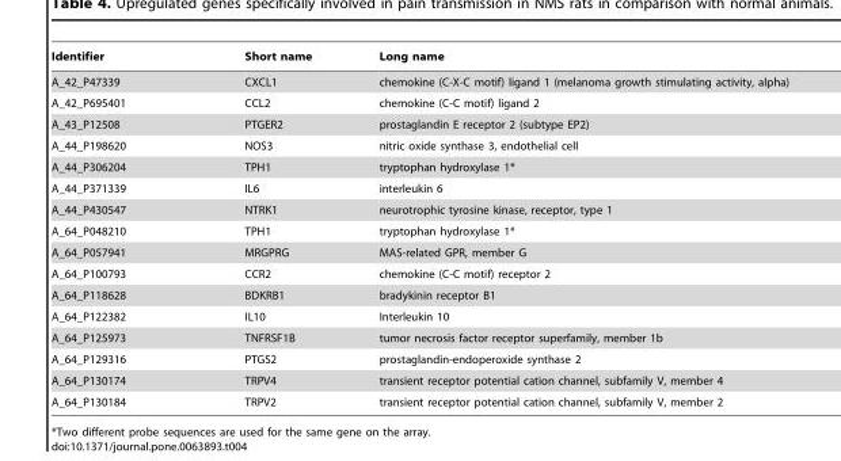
<table><thead><tr><td>Identifier</td><td>Short name</td><td>Long name</td></tr></thead><tbody><tr><td>A_42_P47339</td><td>CXCL1</td><td>chemokine (C-X-C motif) ligand 1 (melanoma growth stimulating activity, alpha)</td></tr><tr><td>A_42_P695401</td><td>CCL2</td><td>chemokine (C-C motif) ligand 2</td></tr><tr><td>A_43_P12508</td><td>PTGER2</td><td>prostaglandin E receptor 2 (subtype EP2)</td></tr><tr><td>A_44_P198620</td><td>NOS3</td><td>nitric oxide synthase 3, endothelial cell</td></tr><tr><td>A_44_P306204</td><td>TPH1</td><td>tryptophan hydroxylase 1*</td></tr><tr><td>A_44_P371339</td><td>IL6</td><td>interleukin 6</td></tr><tr><td>A_44_P430547</td><td>NTRK1</td><td>neurotrophic tyrosine kinase, receptor, type 1</td></tr><tr><td>A_64_P048210</td><td>TPH1</td><td>tryptophan hydroxylase 1*</td></tr><tr><td>A_64_P057941</td><td>MRGPRG</td><td>MAS-related GPR, member G</td></tr><tr><td>A_64_P100793</td><td>CCR2</td><td>chemokine (C-C motif) receptor 2</td></tr><tr><td>A_64_P118628</td><td>BDKRB1</td><td>bradykinin receptor B1</td></tr><tr><td>A_64_P122382</td><td>IL10</td><td>Interleukin 10</td></tr><tr><td>A_64_P125973</td><td>TNFRSF1B</td><td>tumor necrosis factor receptor superfamily, member 1b</td></tr><tr><td>A_64_P129316</td><td>PTGS2</td><td>prostaglandin-endoperoxide synthase 2</td></tr><tr><td>A_64_P130174</td><td>TRPV4</td><td>transient receptor potential cation channel, subfamily V, member 4</td></tr><tr><td>A_64_P130184</td><td>TRPV2</td><td>transient receptor potential cation channel, subfamily V, member 2</td></tr></tbody></table>